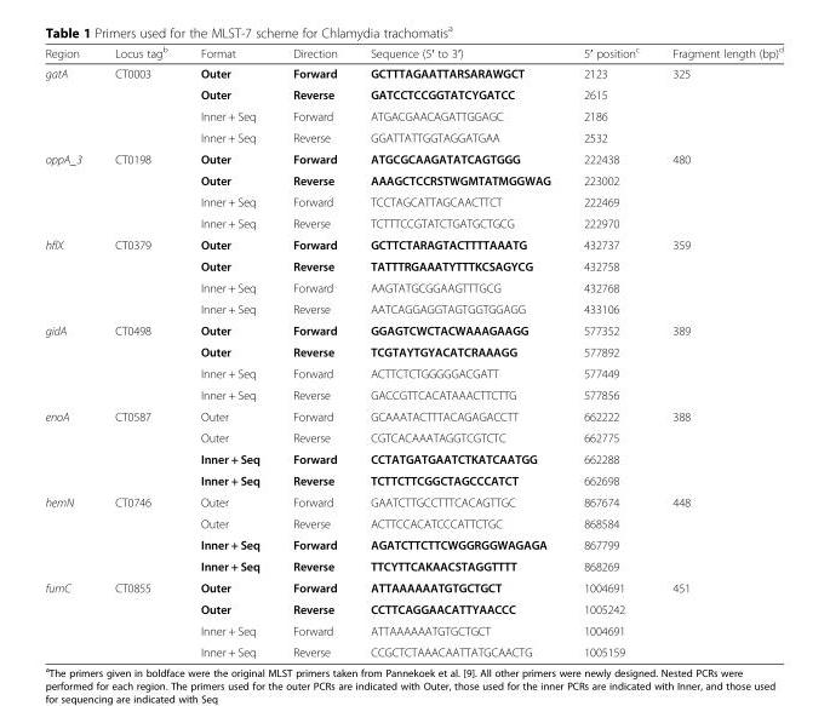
<table><thead><tr><td>Region</td><td>Locus tag<sup>b</sup></td><td>Format</td><td>Direction</td><td>Sequence (5′ to 3′)</td><td>5′ position<sup>c</sup></td><td>Fragment length (bp)<sup>d</sup></td></tr></thead><tbody><tr><td rowspan="4">gatA</td><td>CT0003</td><td>Outer</td><td>Forward</td><td>GCTTTAGAATTARSARAWGCT</td><td>2123</td><td>325</td></tr><tr><td></td><td>Outer</td><td>Reverse</td><td>GATCCTCCGGTATCYGATCC</td><td>2615</td><td></td></tr><tr><td></td><td>Inner + Seq</td><td>Forward</td><td>ATGACGAACAGATTGGAGC</td><td>2186</td><td></td></tr><tr><td></td><td>Inner + Seq</td><td>Reverse</td><td>GGATTATTGGTAGGATGAA</td><td>2532</td><td></td></tr><tr><td rowspan="4">oppA_3</td><td>CT0198</td><td>Outer</td><td>Forward</td><td>ATGCGCAAGATATCAGTGGG</td><td>222438</td><td>480</td></tr><tr><td></td><td>Outer</td><td>Reverse</td><td>AAAGCTCCRSTWGMTATMGGWAG</td><td>223002</td><td></td></tr><tr><td></td><td>Inner + Seq</td><td>Forward</td><td>TCCTAGCATTAGCAACTTCT</td><td>222469</td><td></td></tr><tr><td></td><td>Inner + Seq</td><td>Reverse</td><td>TCTTTCCGTATCTGATGCTGCG</td><td>222970</td><td></td></tr><tr><td rowspan="4">hflX</td><td>CT0379</td><td>Outer</td><td>Forward</td><td>GCTTCTARAGTACTTTTAAATG</td><td>432737</td><td>359</td></tr><tr><td></td><td>Outer</td><td>Reverse</td><td>TATTTRGAAATYTTTKCSAGYCG</td><td>432758</td><td></td></tr><tr><td></td><td>Inner + Seq</td><td>Forward</td><td>AAGTATGCGGAAGTTTGCG</td><td>432768</td><td></td></tr><tr><td></td><td>Inner + Seq</td><td>Reverse</td><td>AATCAGGAGGTAGTGGTGGAGG</td><td>433106</td><td></td></tr><tr><td rowspan="4">gidA</td><td>CT0498</td><td>Outer</td><td>Forward</td><td>GGAGTCWCTACWAAAGAAGG</td><td>577352</td><td>389</td></tr><tr><td></td><td>Outer</td><td>Reverse</td><td>TCGTAYTGYACATCRAAAGG</td><td>577892</td><td></td></tr><tr><td></td><td>Inner + Seq</td><td>Forward</td><td>ACTTCTCTGGGGGACGATT</td><td>577449</td><td></td></tr><tr><td></td><td>Inner + Seq</td><td>Reverse</td><td>GACCGTTCACATAAACTTCTTG</td><td>577856</td><td></td></tr><tr><td rowspan="4">enoA</td><td>CT0587</td><td>Outer</td><td>Forward</td><td>GCAAATACTTTACAGAGACCTT</td><td>662222</td><td>388</td></tr><tr><td></td><td>Outer</td><td>Reverse</td><td>CGTCACAAATAGGTCGTCTC</td><td>662775</td><td></td></tr><tr><td></td><td>Inner + Seq</td><td>Forward</td><td>CCTATGATGAATCTKATCAATGG</td><td>662288</td><td></td></tr><tr><td></td><td>Inner + Seq</td><td>Reverse</td><td>TCTTCTTCGGCTAGCCCATCT</td><td>662698</td><td></td></tr><tr><td rowspan="4">hemN</td><td>CT0746</td><td>Outer</td><td>Forward</td><td>GAATCTTGCCTTTCACAGTTGC</td><td>867674</td><td>448</td></tr><tr><td></td><td>Outer</td><td>Reverse</td><td>ACTTCCACATCCCATTCTGC</td><td>868584</td><td></td></tr><tr><td></td><td>Inner + Seq</td><td>Forward</td><td>AGATCTTCTTCWGGRGGWAGAGA</td><td>867799</td><td></td></tr><tr><td></td><td>Inner + Seq</td><td>Reverse</td><td>TTCYTTCAKAACSTAGGTTTT</td><td>868269</td><td></td></tr><tr><td rowspan="4">fumC</td><td>CT0855</td><td>Outer</td><td>Forward</td><td>ATTAAAAAATGTGCTGCT</td><td>1004691</td><td>451</td></tr><tr><td></td><td>Outer</td><td>Reverse</td><td>CCTTCAGGAACATTYAACCC</td><td>1005242</td><td></td></tr><tr><td></td><td>Inner + Seq</td><td>Forward</td><td>ATTAAAAAATGTGCTGCT</td><td>1004691</td><td></td></tr><tr><td></td><td>Inner + Seq</td><td>Reverse</td><td>CCGCTCTAAACAATTATGCAACTG</td><td>1005159</td><td></td></tr></tbody></table>